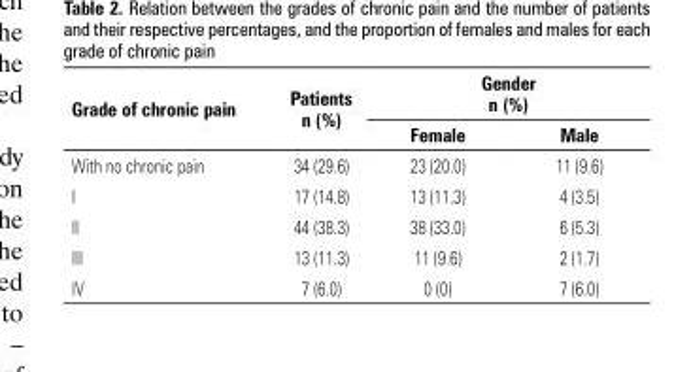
<table><thead><tr><td rowspan="2">Grade of chronic pain</td><td rowspan="2">Patients n (%)</td><td colspan="2">Gender n (%)</td></tr><tr><td>Female</td><td>Male</td></tr></thead><tbody><tr><td>With no chronic pain</td><td>34 (29.6)</td><td>23 (20.0)</td><td>11 (9.6)</td></tr><tr><td>I</td><td>17 (14.8)</td><td>13 (11.3)</td><td>4 (3.5)</td></tr><tr><td>II</td><td>44 (38.3)</td><td>38 (33.0)</td><td>6 (5.3)</td></tr><tr><td>III</td><td>13 (11.3)</td><td>11 (9.6)</td><td>2 (1.7)</td></tr><tr><td>IV</td><td>7 (6.0)</td><td>0 (0)</td><td>7 (6.0)</td></tr></tbody></table>